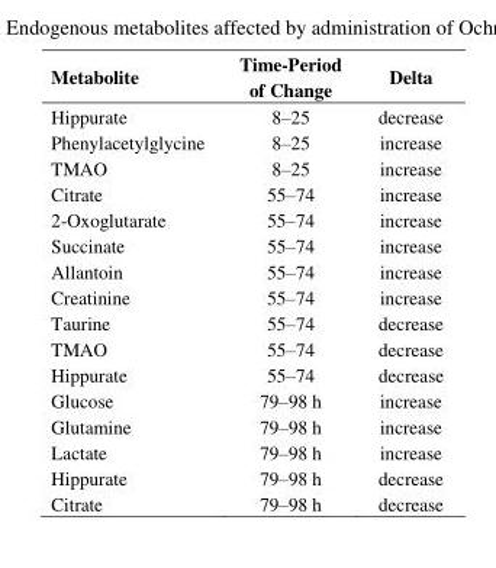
<table><thead><tr><td>Metabolite</td><td>Time-Period of Change</td><td>Delta</td></tr></thead><tbody><tr><td>Hippurate</td><td>8–25</td><td>decrease</td></tr><tr><td>Phenylacetylglycine</td><td>8–25</td><td>increase</td></tr><tr><td>TMAO</td><td>8–25</td><td>increase</td></tr><tr><td>Citrate</td><td>55–74</td><td>increase</td></tr><tr><td>2-Oxoglutarate</td><td>55–74</td><td>increase</td></tr><tr><td>Succinate</td><td>55–74</td><td>increase</td></tr><tr><td>Allantoin</td><td>55–74</td><td>increase</td></tr><tr><td>Creatinine</td><td>55–74</td><td>increase</td></tr><tr><td>Taurine</td><td>55–74</td><td>decrease</td></tr><tr><td>TMAO</td><td>55–74</td><td>decrease</td></tr><tr><td>Hippurate</td><td>55–74</td><td>decrease</td></tr><tr><td>Glucose</td><td>79–98 h</td><td>increase</td></tr><tr><td>Glutamine</td><td>79–98 h</td><td>increase</td></tr><tr><td>Lactate</td><td>79–98 h</td><td>increase</td></tr><tr><td>Hippurate</td><td>79–98 h</td><td>decrease</td></tr><tr><td>Citrate</td><td>79–98 h</td><td>decrease</td></tr></tbody></table>